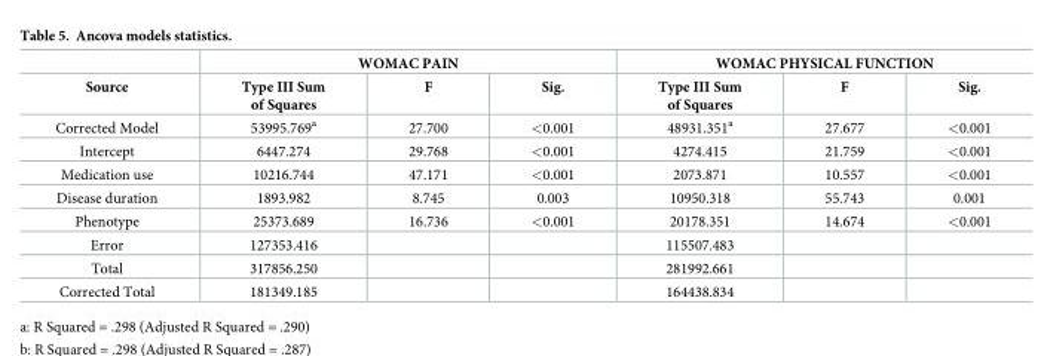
<table><thead><tr><td rowspan="2">Source</td><td colspan="3">WOMAC PAIN</td><td colspan="3">WOMAC PHYSICAL FUNCTION</td></tr><tr><td>Type III Sum of Squares</td><td>F</td><td>Sig.</td><td>Type III Sum of Squares</td><td>F</td><td>Sig.</td></tr></thead><tbody><tr><td>Corrected Model</td><td>53995.769<sup>a</sup></td><td>27.700</td><td>&lt;0.001</td><td>48931.351<sup>a</sup></td><td>27.677</td><td>&lt;0.001</td></tr><tr><td>Intercept</td><td>6447.274</td><td>29.768</td><td>&lt;0.001</td><td>4274.415</td><td>21.759</td><td>&lt;0.001</td></tr><tr><td>Medication use</td><td>10216.744</td><td>47.171</td><td>&lt;0.001</td><td>2073.871</td><td>10.557</td><td>&lt;0.001</td></tr><tr><td>Disease duration</td><td>1893.982</td><td>8.745</td><td>0.003</td><td>10950.318</td><td>55.743</td><td>0.001</td></tr><tr><td>Phenotype</td><td>25373.689</td><td>16.736</td><td>&lt;0.001</td><td>20178.351</td><td>14.674</td><td>&lt;0.001</td></tr><tr><td>Error</td><td>127353.416</td><td></td><td></td><td>115507.483</td><td></td><td></td></tr><tr><td>Total</td><td>317856.250</td><td></td><td></td><td>281992.661</td><td></td><td></td></tr><tr><td>Corrected Total</td><td>181349.185</td><td></td><td></td><td>164438.834</td><td></td><td></td></tr></tbody></table>